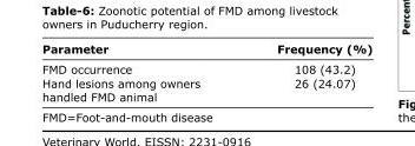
<table><thead><tr><td>Parameter</td><td>Frequency (%)</td></tr></thead><tbody><tr><td>FMD occurrence</td><td>108 (43.2)</td></tr><tr><td>Hand lesions among owners handled FMD animal</td><td>26 (24.07)</td></tr></tbody></table>